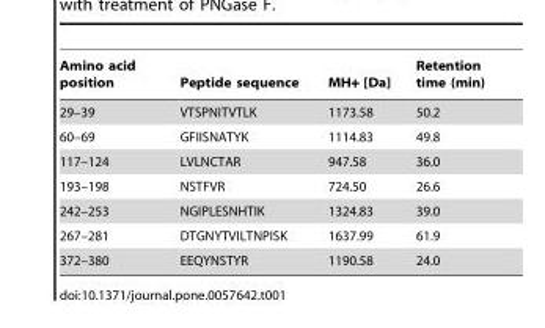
<table><thead><tr><td>Amino acid position</td><td>Peptide sequence</td><td>MH+ [Da]</td><td>Retention time (min)</td></tr></thead><tbody><tr><td>29–39</td><td>VTSPNITVTLK</td><td>1173.58</td><td>50.2</td></tr><tr><td>60–69</td><td>GFIISNATYK</td><td>1114.83</td><td>49.8</td></tr><tr><td>117–124</td><td>LVLNCTAR</td><td>947.58</td><td>36.0</td></tr><tr><td>193–198</td><td>NSTFVR</td><td>724.50</td><td>26.6</td></tr><tr><td>242–253</td><td>NGIPLESNHTIK</td><td>1324.83</td><td>39.0</td></tr><tr><td>267–281</td><td>DTGNYTVILTNPISK</td><td>1637.99</td><td>61.9</td></tr><tr><td>372–380</td><td>EEQYNSTYR</td><td>1190.58</td><td>24.0</td></tr></tbody></table>